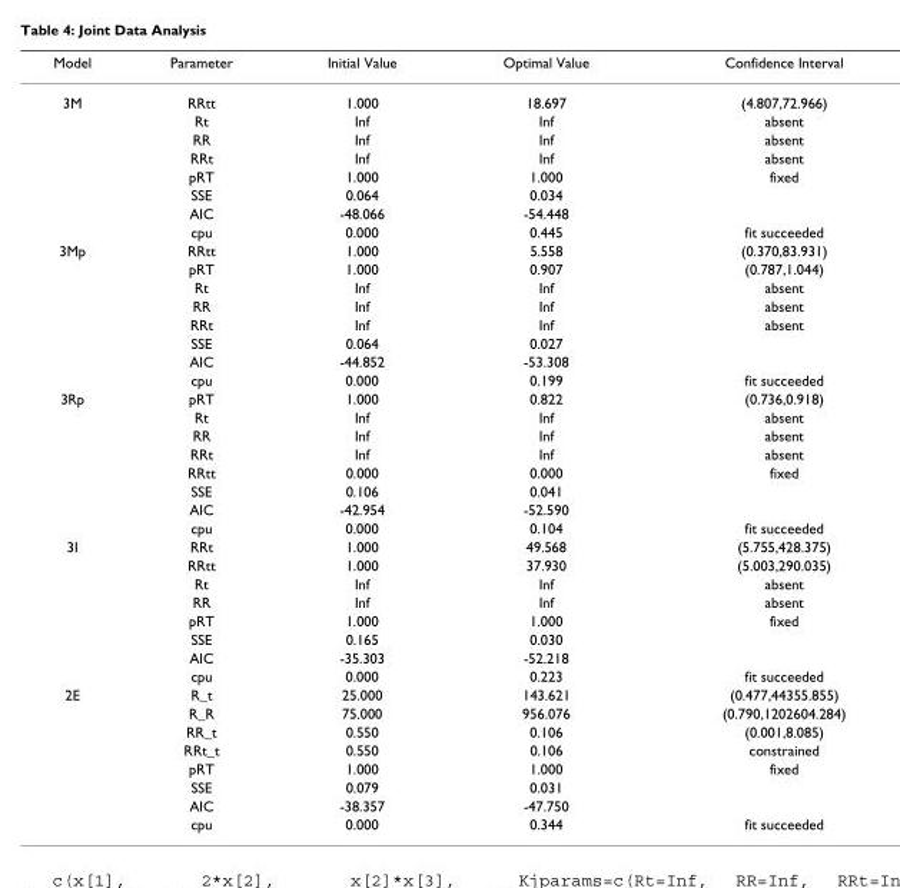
<table><thead><tr><td>Model</td><td>Parameter</td><td>Initial Value</td><td>Optimal Value</td><td>Confidence Interval</td></tr></thead><tbody><tr><td rowspan="8">3M</td><td>RRtt</td><td>1.000</td><td>18.697</td><td>(4.807,72.966)</td></tr><tr><td>Rt</td><td>Inf</td><td>Inf</td><td>absent</td></tr><tr><td>RR</td><td>Inf</td><td>Inf</td><td>absent</td></tr><tr><td>RRt</td><td>Inf</td><td>Inf</td><td>absent</td></tr><tr><td>pRT</td><td>1.000</td><td>1.000</td><td>fixed</td></tr><tr><td>SSE</td><td>0.064</td><td>0.034</td><td></td></tr><tr><td>AIC</td><td>-48.066</td><td>-54.448</td><td></td></tr><tr><td>cpu</td><td>0.000</td><td>0.445</td><td>fit succeeded</td></tr><tr><td rowspan="8">3Mp</td><td>RRtt</td><td>1.000</td><td>5.558</td><td>(0.370,83.931)</td></tr><tr><td>pRT</td><td>1.000</td><td>0.907</td><td>(0.787,1.044)</td></tr><tr><td>Rt</td><td>Inf</td><td>Inf</td><td>absent</td></tr><tr><td>RR</td><td>Inf</td><td>Inf</td><td>absent</td></tr><tr><td>RRt</td><td>Inf</td><td>Inf</td><td>absent</td></tr><tr><td>SSE</td><td>0.064</td><td>0.027</td><td></td></tr><tr><td>AIC</td><td>-44.852</td><td>-53.308</td><td></td></tr><tr><td>cpu</td><td>0.000</td><td>0.199</td><td>fit succeeded</td></tr><tr><td rowspan="8">3Rp</td><td>pRT</td><td>1.000</td><td>0.822</td><td>(0.736,0.918)</td></tr><tr><td>Rt</td><td>Inf</td><td>Inf</td><td>absent</td></tr><tr><td>RR</td><td>Inf</td><td>Inf</td><td>absent</td></tr><tr><td>RRt</td><td>Inf</td><td>Inf</td><td>absent</td></tr><tr><td>RRtt</td><td>0.000</td><td>0.000</td><td>fixed</td></tr><tr><td>SSE</td><td>0.106</td><td>0.041</td><td></td></tr><tr><td>AIC</td><td>-42.954</td><td>-52.590</td><td></td></tr><tr><td>cpu</td><td>0.000</td><td>0.104</td><td>fit succeeded</td></tr><tr><td rowspan="8">3I</td><td>RRt</td><td>1.000</td><td>49.568</td><td>(5.755,428.375)</td></tr><tr><td>RRtt</td><td>1.000</td><td>37.930</td><td>(5.003,290.035)</td></tr><tr><td>Rt</td><td>Inf</td><td>Inf</td><td>absent</td></tr><tr><td>RR</td><td>Inf</td><td>Inf</td><td>absent</td></tr><tr><td>pRT</td><td>1.000</td><td>1.000</td><td>fixed</td></tr><tr><td>SSE</td><td>0.165</td><td>0.030</td><td></td></tr><tr><td>AIC</td><td>-35.303</td><td>-52.218</td><td></td></tr><tr><td>cpu</td><td>0.000</td><td>0.223</td><td>fit succeeded</td></tr><tr><td rowspan="8">2E</td><td>R_t</td><td>25.000</td><td>143.621</td><td>(0.477,44355.855)</td></tr><tr><td>R_R</td><td>75.000</td><td>956.076</td><td>(0.790,1202604.284)</td></tr><tr><td>RR_t</td><td>0.550</td><td>0.106</td><td>(0.001,8.085)</td></tr><tr><td>RRt_t</td><td>0.550</td><td>0.106</td><td>constrained</td></tr><tr><td>pRT</td><td>1.000</td><td>1.000</td><td>fixed</td></tr><tr><td>SSE</td><td>0.079</td><td>0.031</td><td></td></tr><tr><td>AIC</td><td>-38.357</td><td>-47.750</td><td></td></tr><tr><td>cpu</td><td>0.000</td><td>0.344</td><td>fit succeeded</td></tr></tbody></table>